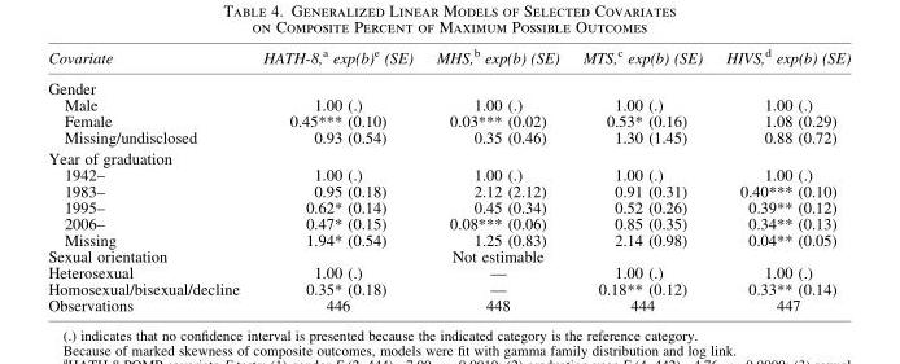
<table><thead><tr><td>Covariate</td><td>HATH-8,<sup>a</sup> exp(b)<sup>e</sup> (SE)</td><td>MHS,<sup>b</sup> exp(b) (SE)</td><td>MTS,<sup>c</sup> exp(b) (SE)</td><td>HIVS,<sup>d</sup> exp(b) (SE)</td></tr></thead><tbody><tr><td colspan="5">Gender</td></tr><tr><td>Male</td><td>1.00 (.)</td><td>1.00 (.)</td><td>1.00 (.)</td><td>1.00 (.)</td></tr><tr><td>Female</td><td>0.45*** (0.10)</td><td>0.03*** (0.02)</td><td>0.53* (0.16)</td><td>1.08 (0.29)</td></tr><tr><td>Missing/undisclosed</td><td>0.93 (0.54)</td><td>0.35 (0.46)</td><td>1.30 (1.45)</td><td>0.88 (0.72)</td></tr><tr><td colspan="5">Year of graduation</td></tr><tr><td>1942–</td><td>1.00 (.)</td><td>1.00 (.)</td><td>1.00 (.)</td><td>1.00 (.)</td></tr><tr><td>1983–</td><td>0.95 (0.18)</td><td>2.12 (2.12)</td><td>0.91 (0.31)</td><td>0.40*** (0.10)</td></tr><tr><td>1995–</td><td>0.62* (0.14)</td><td>0.45 (0.34)</td><td>0.52 (0.26)</td><td>0.39** (0.12)</td></tr><tr><td>2006–</td><td>0.47* (0.15)</td><td>0.08*** (0.06)</td><td>0.85 (0.35)</td><td>0.34** (0.13)</td></tr><tr><td>Missing</td><td>1.94* (0.54)</td><td>1.25 (0.83)</td><td>2.14 (0.98)</td><td>0.04** (0.05)</td></tr><tr><td>Sexual orientation</td><td></td><td>Not estimable</td><td></td><td></td></tr><tr><td>Heterosexual</td><td>1.00 (.)</td><td>—</td><td>1.00 (.)</td><td>1.00 (.)</td></tr><tr><td>Homosexual/bisexual/decline</td><td>0.35* (0.18)</td><td>—</td><td>0.18** (0.12)</td><td>0.33** (0.14)</td></tr><tr><td>Observations</td><td>446</td><td>448</td><td>444</td><td>447</td></tr></tbody></table>